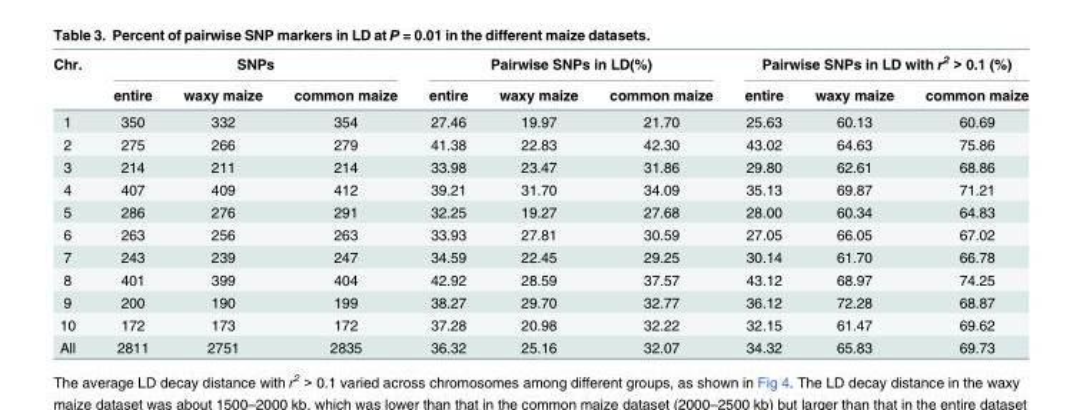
<table><thead><tr><td rowspan="2">Chr.</td><td colspan="3">SNPs</td><td colspan="3">Pairwise SNPs in LD(%)</td><td colspan="3">Pairwise SNPs in LD with r<sup>2</sup> &gt; 0.1 (%)</td></tr><tr><td>entire</td><td>waxy maize</td><td>common maize</td><td>entire</td><td>waxy maize</td><td>common maize</td><td>entire</td><td>waxy maize</td><td>common maize</td></tr></thead><tbody><tr><td>1</td><td>350</td><td>332</td><td>354</td><td>27.46</td><td>19.97</td><td>21.70</td><td>25.63</td><td>60.13</td><td>60.69</td></tr><tr><td>2</td><td>275</td><td>266</td><td>279</td><td>41.38</td><td>22.83</td><td>42.30</td><td>43.02</td><td>64.63</td><td>75.86</td></tr><tr><td>3</td><td>214</td><td>211</td><td>214</td><td>33.98</td><td>23.47</td><td>31.86</td><td>29.80</td><td>62.61</td><td>68.86</td></tr><tr><td>4</td><td>407</td><td>409</td><td>412</td><td>39.21</td><td>31.70</td><td>34.09</td><td>35.13</td><td>69.87</td><td>71.21</td></tr><tr><td>5</td><td>286</td><td>276</td><td>291</td><td>32.25</td><td>19.27</td><td>27.68</td><td>28.00</td><td>60.34</td><td>64.83</td></tr><tr><td>6</td><td>263</td><td>256</td><td>263</td><td>33.93</td><td>27.81</td><td>30.59</td><td>27.05</td><td>66.05</td><td>67.02</td></tr><tr><td>7</td><td>243</td><td>239</td><td>247</td><td>34.59</td><td>22.45</td><td>29.25</td><td>30.14</td><td>61.70</td><td>66.78</td></tr><tr><td>8</td><td>401</td><td>399</td><td>404</td><td>42.92</td><td>28.59</td><td>37.57</td><td>43.12</td><td>68.97</td><td>74.25</td></tr><tr><td>9</td><td>200</td><td>190</td><td>199</td><td>38.27</td><td>29.70</td><td>32.77</td><td>36.12</td><td>72.28</td><td>68.87</td></tr><tr><td>10</td><td>172</td><td>173</td><td>172</td><td>37.28</td><td>20.98</td><td>32.22</td><td>32.15</td><td>61.47</td><td>69.62</td></tr><tr><td>All</td><td>2811</td><td>2751</td><td>2835</td><td>36.32</td><td>25.16</td><td>32.07</td><td>34.32</td><td>65.83</td><td>69.73</td></tr></tbody></table>